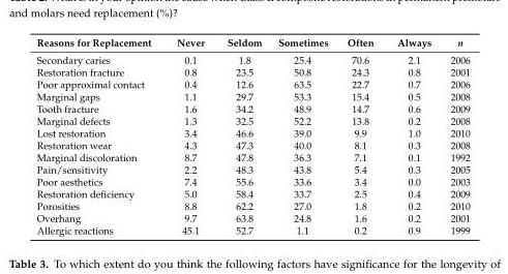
<table><thead><tr><td>Reasons for Replacement</td><td>Never</td><td>Seldom</td><td>Sometimes</td><td>Often</td><td>Always</td><td>n</td></tr></thead><tbody><tr><td>Secondary caries</td><td>0.1</td><td>1.8</td><td>25.4</td><td>70.6</td><td>2.1</td><td>2006</td></tr><tr><td>Restoration fracture</td><td>0.8</td><td>23.5</td><td>50.8</td><td>24.3</td><td>0.8</td><td>2001</td></tr><tr><td>Poor approximal contact</td><td>0.4</td><td>12.6</td><td>63.5</td><td>22.7</td><td>0.7</td><td>2006</td></tr><tr><td>Marginal gaps</td><td>1.1</td><td>29.7</td><td>53.3</td><td>15.4</td><td>0.5</td><td>2008</td></tr><tr><td>Tooth fracture</td><td>1.6</td><td>34.2</td><td>48.9</td><td>14.7</td><td>0.6</td><td>2009</td></tr><tr><td>Marginal defects</td><td>1.3</td><td>32.5</td><td>52.2</td><td>13.8</td><td>0.2</td><td>2008</td></tr><tr><td>Lost restoration</td><td>3.4</td><td>46.6</td><td>39.0</td><td>9.9</td><td>1.0</td><td>2010</td></tr><tr><td>Restoration wear</td><td>4.3</td><td>47.3</td><td>40.0</td><td>8.1</td><td>0.3</td><td>2008</td></tr><tr><td>Marginal discoloration</td><td>8.7</td><td>47.8</td><td>36.3</td><td>7.1</td><td>0.1</td><td>1992</td></tr><tr><td>Pain/sensitivity</td><td>2.2</td><td>48.3</td><td>43.8</td><td>5.4</td><td>0.3</td><td>2005</td></tr><tr><td>Poor aesthetics</td><td>7.4</td><td>55.6</td><td>33.6</td><td>3.4</td><td>0.0</td><td>2003</td></tr><tr><td>Restoration deficiency</td><td>5.0</td><td>58.4</td><td>33.7</td><td>2.5</td><td>0.4</td><td>2009</td></tr><tr><td>Porosities</td><td>8.8</td><td>62.2</td><td>27.0</td><td>1.8</td><td>0.2</td><td>2010</td></tr><tr><td>Overhang</td><td>9.7</td><td>63.8</td><td>24.8</td><td>1.6</td><td>0.2</td><td>2001</td></tr><tr><td>Allergic reactions</td><td>45.1</td><td>52.7</td><td>1.1</td><td>0.2</td><td>0.9</td><td>1999</td></tr></tbody></table>